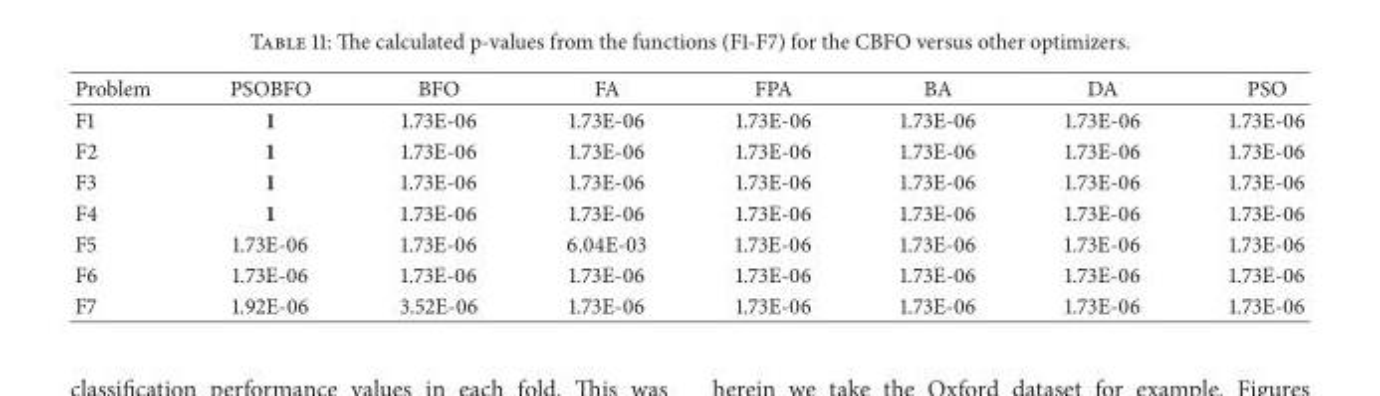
<table><thead><tr><td>Problem</td><td>PSOBFO</td><td>BFO</td><td>FA</td><td>FPA</td><td>BA</td><td>DA</td><td>PSO</td></tr></thead><tbody><tr><td>F1</td><td>1</td><td>1.73E-06</td><td>1.73E-06</td><td>1.73E-06</td><td>1.73E-06</td><td>1.73E-06</td><td>1.73E-06</td></tr><tr><td>F2</td><td>1</td><td>1.73E-06</td><td>1.73E-06</td><td>1.73E-06</td><td>1.73E-06</td><td>1.73E-06</td><td>1.73E-06</td></tr><tr><td>F3</td><td>1</td><td>1.73E-06</td><td>1.73E-06</td><td>1.73E-06</td><td>1.73E-06</td><td>1.73E-06</td><td>1.73E-06</td></tr><tr><td>F4</td><td>1</td><td>1.73E-06</td><td>1.73E-06</td><td>1.73E-06</td><td>1.73E-06</td><td>1.73E-06</td><td>1.73E-06</td></tr><tr><td>F5</td><td>1.73E-06</td><td>1.73E-06</td><td>6.04E-03</td><td>1.73E-06</td><td>1.73E-06</td><td>1.73E-06</td><td>1.73E-06</td></tr><tr><td>F6</td><td>1.73E-06</td><td>1.73E-06</td><td>1.73E-06</td><td>1.73E-06</td><td>1.73E-06</td><td>1.73E-06</td><td>1.73E-06</td></tr><tr><td>F7</td><td>1.92E-06</td><td>3.52E-06</td><td>1.73E-06</td><td>1.73E-06</td><td>1.73E-06</td><td>1.73E-06</td><td>1.73E-06</td></tr></tbody></table>